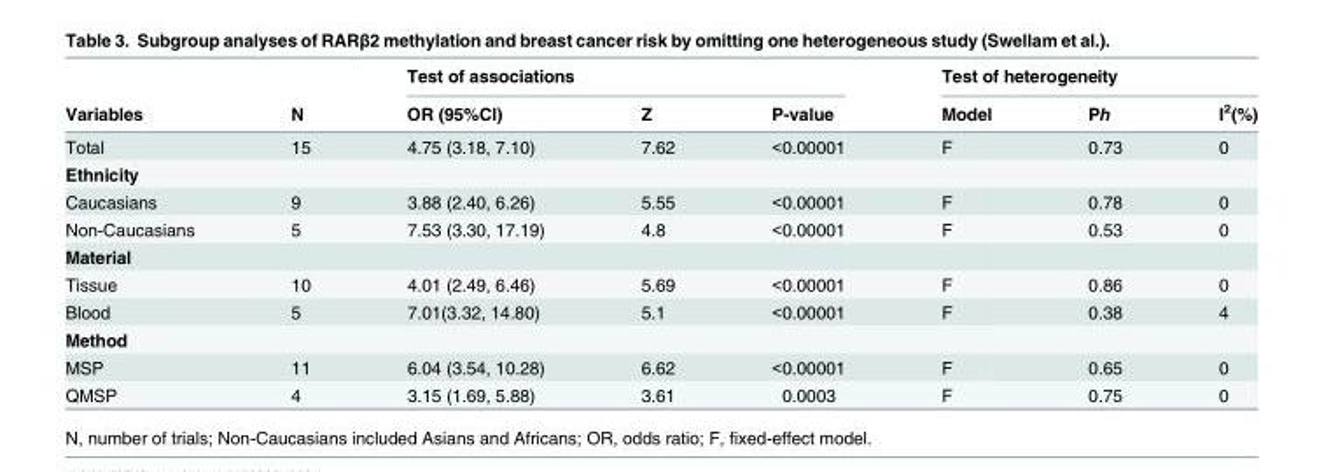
<table><thead><tr><td rowspan="2">Variables</td><td rowspan="2">N</td><td colspan="3">Test of associations</td><td colspan="3">Test of heterogeneity</td></tr><tr><td>OR (95%CI)</td><td>Z</td><td>P-value</td><td>Model</td><td>Ph</td><td>I<sup>2</sup>(%)</td></tr></thead><tbody><tr><td>Total</td><td>15</td><td>4.75 (3.18, 7.10)</td><td>7.62</td><td>&lt;0.00001</td><td>F</td><td>0.73</td><td>0</td></tr><tr><td colspan="8">Ethnicity</td></tr><tr><td>Caucasians</td><td>9</td><td>3.88 (2.40, 6.26)</td><td>5.55</td><td>&lt;0.00001</td><td>F</td><td>0.78</td><td>0</td></tr><tr><td>Non-Caucasians</td><td>5</td><td>7.53 (3.30, 17.19)</td><td>4.8</td><td>&lt;0.00001</td><td>F</td><td>0.53</td><td>0</td></tr><tr><td colspan="8">Material</td></tr><tr><td>Tissue</td><td>10</td><td>4.01 (2.49, 6.46)</td><td>5.69</td><td>&lt;0.00001</td><td>F</td><td>0.86</td><td>0</td></tr><tr><td>Blood</td><td>5</td><td>7.01(3.32, 14.80)</td><td>5.1</td><td>&lt;0.00001</td><td>F</td><td>0.38</td><td>4</td></tr><tr><td colspan="8">Method</td></tr><tr><td>MSP</td><td>11</td><td>6.04 (3.54, 10.28)</td><td>6.62</td><td>&lt;0.00001</td><td>F</td><td>0.65</td><td>0</td></tr><tr><td>QMSP</td><td>4</td><td>3.15 (1.69, 5.88)</td><td>3.61</td><td>0.0003</td><td>F</td><td>0.75</td><td>0</td></tr></tbody></table>